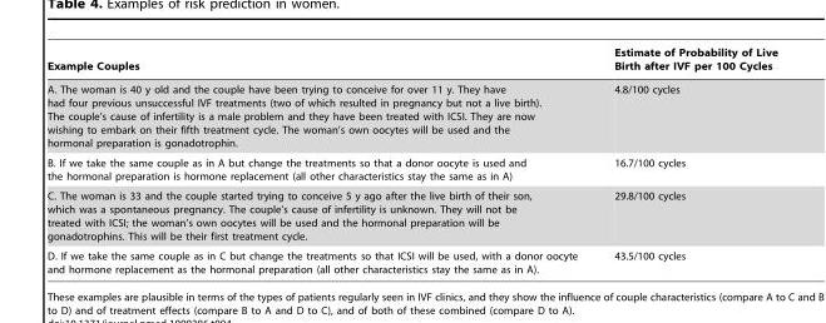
<table><thead><tr><td>Example Couples</td><td>Estimate of Probability of Live Birth after IVF per 100 Cycles</td></tr></thead><tbody><tr><td>A. The woman is 40 y old and the couple have been trying to conceive for over 11 y. They have had four previous unsuccessful IVF treatments (two of which resulted in pregnancy but not a live birth). The couple’s cause of infertility is a male problem and they have been treated with ICSI. They are now wishing to embark on their fifth treatment cycle. The woman’s own oocytes will be used and the hormonal preparation is gonadotrophin.</td><td>4.8/100 cycles</td></tr><tr><td>B. If we take the same couple as in A but change the treatments so that a donor oocyte is used and the hormonal preparation is hormone replacement (all other characteristics stay the same as in A)</td><td>16.7/100 cycles</td></tr><tr><td>C. The woman is 33 and the couple started trying to conceive 5 y ago after the live birth of their son, which was a spontaneous pregnancy. The couple’s cause of infertility is unknown. They will not be treated with ICSI; the woman’s own oocytes will be used and the hormonal preparation will be gonadotrophins. This will be their first treatment cycle.</td><td>29.8/100 cycles</td></tr><tr><td>D. If we take the same couple as in C but change the treatments so that ICSI will be used, with a donor oocyte and hormone replacement as the hormonal preparation (all other characteristics stay the same as in A).</td><td>43.5/100 cycles</td></tr></tbody></table>